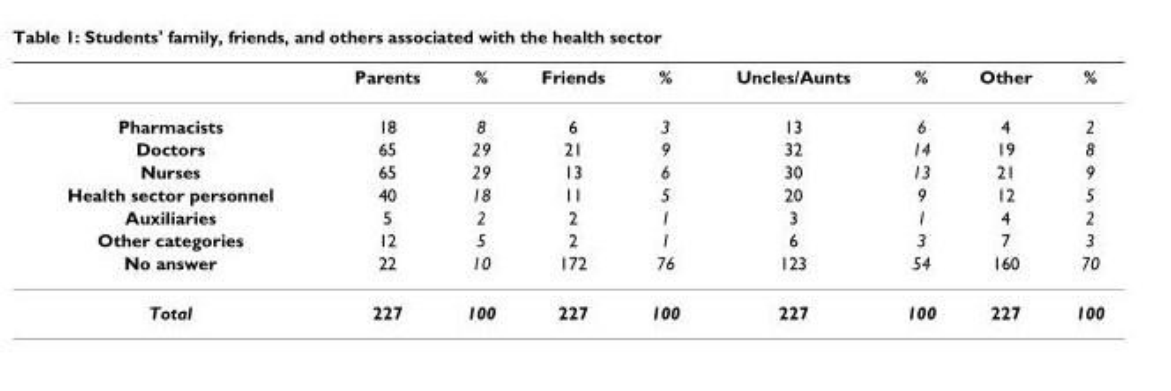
<table><thead><tr><td></td><td>Parents</td><td>%</td><td>Friends</td><td>%</td><td>Uncles/Aunts</td><td>%</td><td>Other</td><td>%</td></tr></thead><tbody><tr><td>Pharmacists</td><td>18</td><td>8</td><td>6</td><td>3</td><td>13</td><td>6</td><td>4</td><td>2</td></tr><tr><td>Doctors</td><td>65</td><td>29</td><td>21</td><td>9</td><td>32</td><td>14</td><td>19</td><td>8</td></tr><tr><td>Nurses</td><td>65</td><td>29</td><td>13</td><td>6</td><td>30</td><td>13</td><td>21</td><td>9</td></tr><tr><td>Health sector personnel</td><td>40</td><td>18</td><td>11</td><td>5</td><td>20</td><td>9</td><td>12</td><td>5</td></tr><tr><td>Auxiliaries</td><td>5</td><td>2</td><td>2</td><td>1</td><td>3</td><td>1</td><td>4</td><td>2</td></tr><tr><td>Other categories</td><td>12</td><td>5</td><td>2</td><td>1</td><td>6</td><td>3</td><td>7</td><td>3</td></tr><tr><td>No answer</td><td>22</td><td>10</td><td>172</td><td>76</td><td>123</td><td>54</td><td>160</td><td>70</td></tr><tr><td>Total</td><td>227</td><td>100</td><td>227</td><td>100</td><td>227</td><td>100</td><td>227</td><td>100</td></tr></tbody></table>